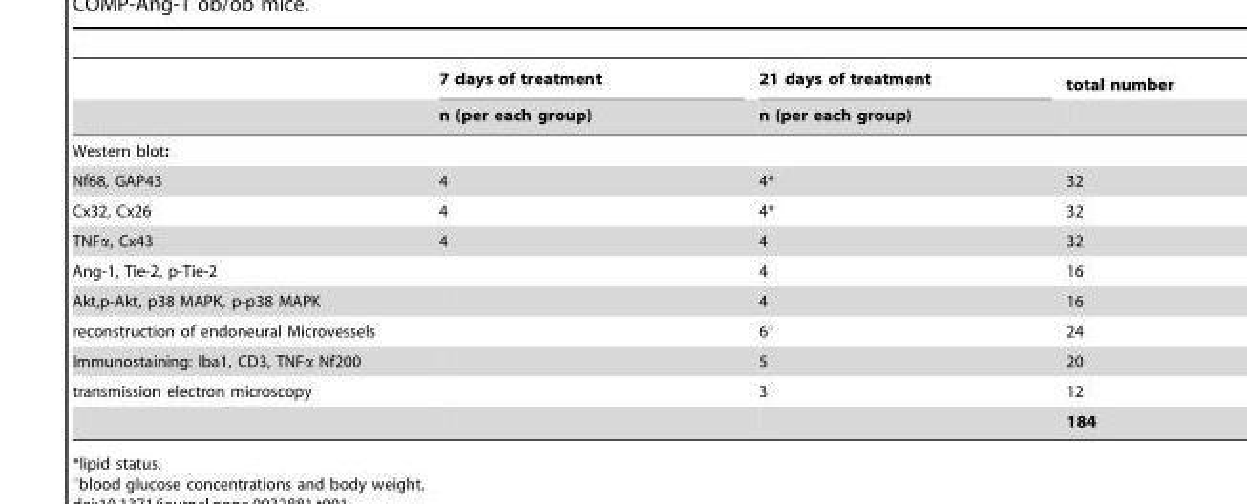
<table><thead><tr><td rowspan="2"></td><td rowspan="2">7 days of treatment n (per each group)</td><td rowspan="2">21 days of treatment n (per each group)</td><td rowspan="2">total number</td></tr><tr></tr></thead><tbody><tr><td colspan="4">Western blot:</td></tr><tr><td>Nf68, GAP43</td><td>4</td><td>4*</td><td>32</td></tr><tr><td>Cx32, Cx26</td><td>4</td><td>4*</td><td>32</td></tr><tr><td>TNFα, Cx43</td><td>4</td><td>4</td><td>32</td></tr><tr><td>Ang-1, Tie-2, p-Tie-2</td><td></td><td>4</td><td>16</td></tr><tr><td>Akt,p-Akt, p38 MAPK, p-p38 MAPK</td><td></td><td>4</td><td>16</td></tr><tr><td>reconstruction of endoneural Microvessels</td><td></td><td>6°</td><td>24</td></tr><tr><td>Immunostaining: Iba1, CD3, TNFα Nf200</td><td></td><td>5</td><td>20</td></tr><tr><td rowspan="2">transmission electron microscopy</td><td></td><td>3</td><td>12</td></tr><tr><td></td><td></td><td>184</td></tr></tbody></table>